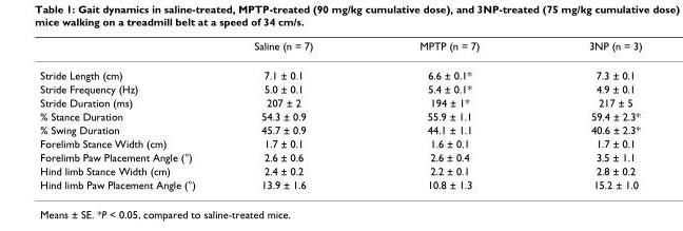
<table><thead><tr><td></td><td>Saline (n = 7)</td><td>MPTP (n = 7)</td><td>3NP (n = 3)</td></tr></thead><tbody><tr><td>Stride Length (cm)</td><td>7.1 ± 0.1</td><td>6.6 ± 0.1*</td><td>7.3 ± 0.1</td></tr><tr><td>Stride Frequency (Hz)</td><td>5.0 ± 0.1</td><td>5.4 ± 0.1*</td><td>4.9 ± 0.1</td></tr><tr><td>Stride Duration (ms)</td><td>207 ± 2</td><td>194 ± 1*</td><td>217 ± 5</td></tr><tr><td>% Stance Duration</td><td>54.3 ± 0.9</td><td>55.9 ± 1.1</td><td>59.4 ± 2.3*</td></tr><tr><td>% Swing Duration</td><td>45.7 ± 0.9</td><td>44.1 ± 1.1</td><td>40.6 ± 2.3*</td></tr><tr><td>Forelimb Stance Width (cm)</td><td>1.7 ± 0.1</td><td>1.6 ± 0.1</td><td>1.7 ± 0.1</td></tr><tr><td>Forelimb Paw Placement Angle (°)</td><td>2.6 ± 0.6</td><td>2.6 ± 0.4</td><td>3.5 ± 1.1</td></tr><tr><td>Hind limb Stance Width (cm)</td><td>2.4 ± 0.2</td><td>2.2 ± 0.1</td><td>2.8 ± 0.2</td></tr><tr><td>Hind limb Paw Placement Angle (°)</td><td>13.9 ± 1.6</td><td>10.8 ± 1.3</td><td>15.2 ± 1.0</td></tr></tbody></table>